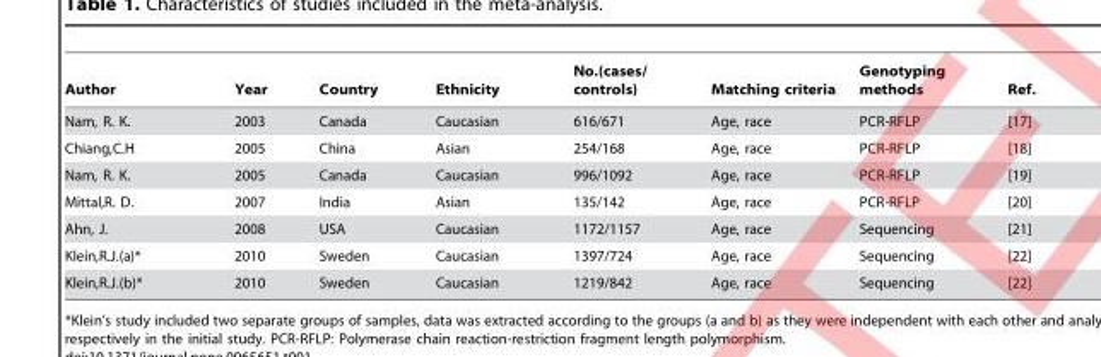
<table><thead><tr><td>Author</td><td>Year</td><td>Country</td><td>Ethnicity</td><td>No.(cases/ controls)</td><td>Matching criteria</td><td>Genotyping methods</td><td>Ref.</td></tr></thead><tbody><tr><td>Nam, R. K.</td><td>2003</td><td>Canada</td><td>Caucasian</td><td>616/671</td><td>Age, race</td><td>PCR-RFLP</td><td>[17]</td></tr><tr><td>Chiang,C.H</td><td>2005</td><td>China</td><td>Asian</td><td>254/168</td><td>Age, race</td><td>PCR-RFLP</td><td>[18]</td></tr><tr><td>Nam, R. K.</td><td>2005</td><td>Canada</td><td>Caucasian</td><td>996/1092</td><td>Age, race</td><td>PCR-RFLP</td><td>[19]</td></tr><tr><td>Mittal,R. D.</td><td>2007</td><td>India</td><td>Asian</td><td>135/142</td><td>Age, race</td><td>PCR-RFLP</td><td>[20]</td></tr><tr><td>Ahn, J.</td><td>2008</td><td>USA</td><td>Caucasian</td><td>1172/1157</td><td>Age, race</td><td>Sequencing</td><td>[21]</td></tr><tr><td>Klein,R.J.(a)*</td><td>2010</td><td>Sweden</td><td>Caucasian</td><td>1397/724</td><td>Age, race</td><td>Sequencing</td><td>[22]</td></tr><tr><td>Klein,R.J.(b)*</td><td>2010</td><td>Sweden</td><td>Caucasian</td><td>1219/842</td><td>Age, race</td><td>Sequencing</td><td>[22]</td></tr></tbody></table>